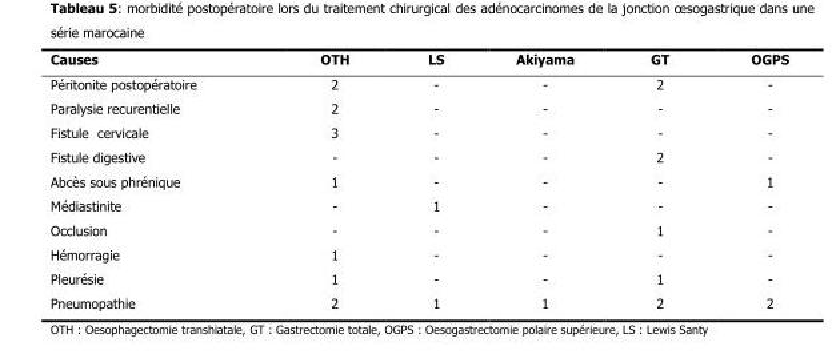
<table><thead><tr><td>Causes</td><td>OTH</td><td>LS</td><td>Akiyama</td><td>GT</td><td>OGPS</td></tr></thead><tbody><tr><td>Péritonite postopératoire</td><td>2</td><td>-</td><td>-</td><td>2</td><td>-</td></tr><tr><td>Paralysie recurentielle</td><td>2</td><td>-</td><td>-</td><td>-</td><td>-</td></tr><tr><td>Fistule cervicale</td><td>3</td><td>-</td><td>-</td><td>-</td><td>-</td></tr><tr><td>Fistule digestive</td><td>-</td><td>-</td><td>-</td><td>2</td><td>-</td></tr><tr><td>Abcès sous phrénique</td><td>1</td><td>-</td><td>-</td><td>-</td><td>1</td></tr><tr><td>Médiastinite</td><td>-</td><td>1</td><td>-</td><td>-</td><td>-</td></tr><tr><td>Occlusion</td><td>-</td><td>-</td><td>-</td><td>1</td><td>-</td></tr><tr><td>Hémorragie</td><td>1</td><td>-</td><td>-</td><td>-</td><td>-</td></tr><tr><td>Pleurésie</td><td>1</td><td>-</td><td>-</td><td>1</td><td>-</td></tr><tr><td>Pneumopathie</td><td>2</td><td>1</td><td>1</td><td>2</td><td>2</td></tr></tbody></table>